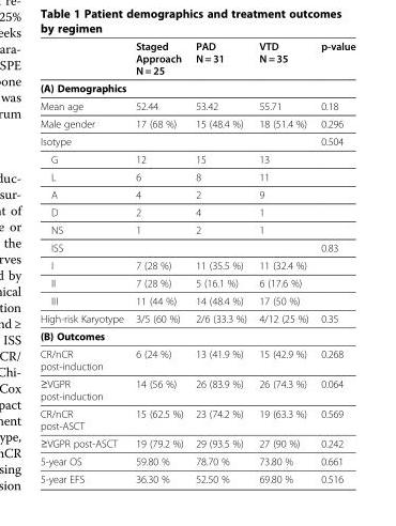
<table><thead><tr><td></td><td>Staged Approach N = 25</td><td>PAD N = 31</td><td>VTD N = 35</td><td>p-value</td></tr></thead><tbody><tr><td colspan="5">(A) Demographics</td></tr><tr><td>Mean age</td><td>52.44</td><td>53.42</td><td>55.71</td><td>0.18</td></tr><tr><td>Male gender</td><td>17 (68 %)</td><td>15 (48.4 %)</td><td>18 (51.4 %)</td><td>0.296</td></tr><tr><td>Isotype</td><td></td><td></td><td></td><td>0.504</td></tr><tr><td>G</td><td>12</td><td>15</td><td>13</td><td></td></tr><tr><td>L</td><td>6</td><td>8</td><td>11</td><td></td></tr><tr><td>A</td><td>4</td><td>2</td><td>9</td><td></td></tr><tr><td>D</td><td>2</td><td>4</td><td>1</td><td></td></tr><tr><td>NS</td><td>1</td><td>2</td><td>1</td><td></td></tr><tr><td>ISS</td><td></td><td></td><td></td><td>0.83</td></tr><tr><td>I</td><td>7 (28 %)</td><td>11 (35.5 %)</td><td>11 (32.4 %)</td><td></td></tr><tr><td>II</td><td>7 (28 %)</td><td>5 (16.1 %)</td><td>6 (17.6 %)</td><td></td></tr><tr><td>III</td><td>11 (44 %)</td><td>14 (48.4 %)</td><td>17 (50 %)</td><td></td></tr><tr><td>High-risk Karyotype</td><td>3/5 (60 %)</td><td>2/6 (33.3 %)</td><td>4/12 (25 %)</td><td>0.35</td></tr><tr><td colspan="5">(B) Outcomes</td></tr><tr><td>CR/nCR post-induction</td><td>6 (24 %)</td><td>13 (41.9 %)</td><td>15 (42.9 %)</td><td>0.268</td></tr><tr><td>≥VGPR post-induction</td><td>14 (56 %)</td><td>26 (83.9 %)</td><td>26 (74.3 %)</td><td>0.064</td></tr><tr><td>CR/nCR post-ASCT</td><td>15 (62.5 %)</td><td>23 (74.2 %)</td><td>19 (63.3 %)</td><td>0.569</td></tr><tr><td>≥VGPR post-ASCT</td><td>19 (79.2 %)</td><td>29 (93.5 %)</td><td>27 (90 %)</td><td>0.242</td></tr><tr><td>5-year OS</td><td>59.80 %</td><td>78.70 %</td><td>73.80 %</td><td>0.661</td></tr><tr><td>5-year EFS</td><td>36.30 %</td><td>52.50 %</td><td>69.80 %</td><td>0.516</td></tr></tbody></table>